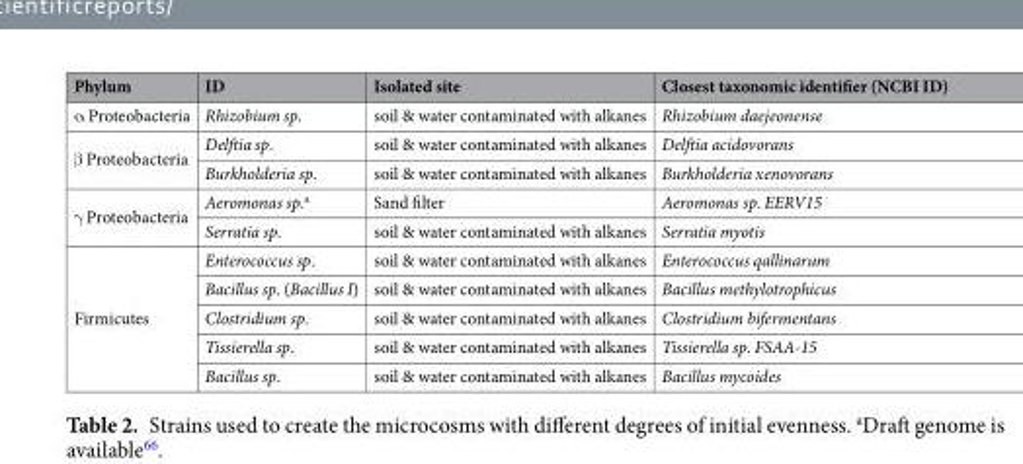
<table><thead><tr><td>Phylum</td><td>ID</td><td>Isolated site</td><td>Closest taxonomic identifier (NCBI ID)</td></tr></thead><tbody><tr><td>α Proteobacteria</td><td>Rhizobium sp.</td><td>soil &amp; water contaminated with alkanes</td><td>Rhizobium daejeonense</td></tr><tr><td rowspan="2">β Proteobacteria</td><td>Delftia sp.</td><td>soil &amp; water contaminated with alkanes</td><td>Delftia acidovorans</td></tr><tr><td>Burkholderia sp.</td><td>soil &amp; water contaminated with alkanes</td><td>Burkholderia xenovorans</td></tr><tr><td rowspan="2">γ Proteobacteria</td><td>Aeromonas sp.<sup>a</sup></td><td>Sand filter</td><td>Aeromonas sp. EERV15</td></tr><tr><td>Serratia sp.</td><td>soil &amp; water contaminated with alkanes</td><td>Serratia myotis</td></tr><tr><td rowspan="5">Firmicutes</td><td>Enterococcus sp.</td><td>soil &amp; water contaminated with alkanes</td><td>Enterococcus qallinarum</td></tr><tr><td>Bacillus sp. (Bacillus I)</td><td>soil &amp; water contaminated with alkanes</td><td>Bacillus methylotrophicus</td></tr><tr><td>Clostridium sp.</td><td>soil &amp; water contaminated with alkanes</td><td>Clostridium bifermentans</td></tr><tr><td>Tissierella sp.</td><td>soil &amp; water contaminated with alkanes</td><td>Tissierella sp. FSAA-15</td></tr><tr><td>Bacillus sp.</td><td>soil &amp; water contaminated with alkanes</td><td>Bacillus mycoides</td></tr></tbody></table>